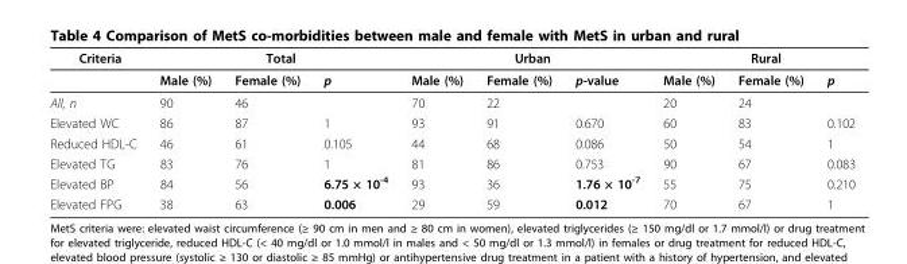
<table><thead><tr><td rowspan="2">Criteria</td><td colspan="3">Total</td><td colspan="3">Urban</td><td colspan="3">Rural</td></tr><tr><td>Male (%)</td><td>Female (%)</td><td>p</td><td>Male (%)</td><td>Female (%)</td><td>p-value</td><td>Male (%)</td><td>Female (%)</td><td>p</td></tr></thead><tbody><tr><td>All, n</td><td>90</td><td>46</td><td></td><td>70</td><td>22</td><td></td><td>20</td><td>24</td><td></td></tr><tr><td>Elevated WC</td><td>86</td><td>87</td><td>1</td><td>93</td><td>91</td><td>0.670</td><td>60</td><td>83</td><td>0.102</td></tr><tr><td>Reduced HDL-C</td><td>46</td><td>61</td><td>0.105</td><td>44</td><td>68</td><td>0.086</td><td>50</td><td>54</td><td>1</td></tr><tr><td>Elevated TG</td><td>83</td><td>76</td><td>1</td><td>81</td><td>86</td><td>0.753</td><td>90</td><td>67</td><td>0.083</td></tr><tr><td>Elevated BP</td><td>84</td><td>56</td><td>6.75 × 10<sup>-4</sup></td><td>93</td><td>36</td><td>1.76 × 10<sup>-7</sup></td><td>55</td><td>75</td><td>0.210</td></tr><tr><td>Elevated FPG</td><td>38</td><td>63</td><td>0.006</td><td>29</td><td>59</td><td>0.012</td><td>70</td><td>67</td><td>1</td></tr></tbody></table>